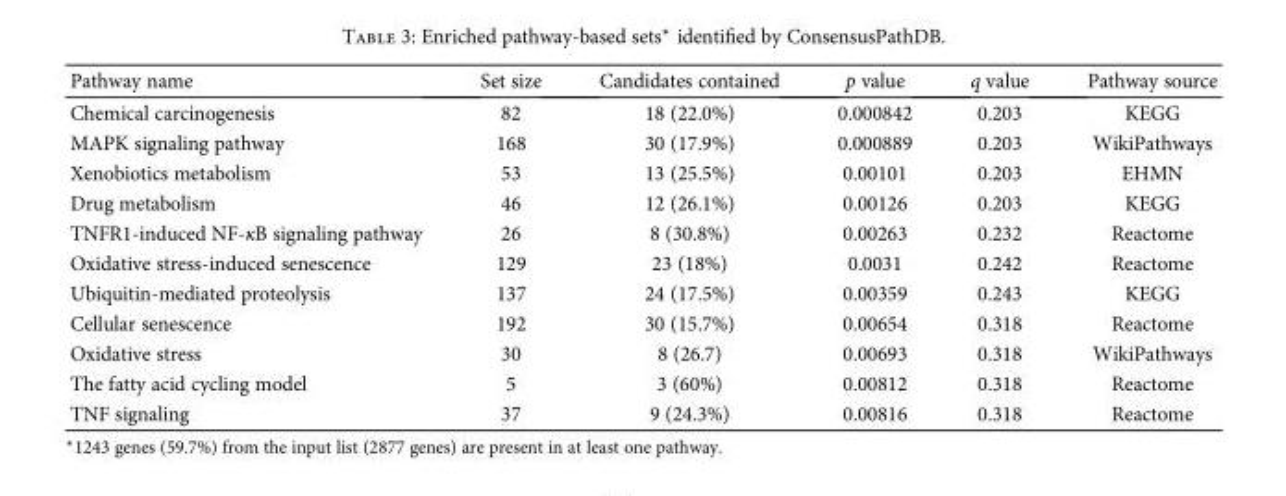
<table><thead><tr><td>Pathway name</td><td>Set size</td><td>Candidates contained</td><td>p value</td><td>q value</td><td>Pathway source</td></tr></thead><tbody><tr><td>Chemical carcinogenesis</td><td>82</td><td>18 (22.0%)</td><td>0.000842</td><td>0.203</td><td>KEGG</td></tr><tr><td>MAPK signaling pathway</td><td>168</td><td>30 (17.9%)</td><td>0.000889</td><td>0.203</td><td>WikiPathways</td></tr><tr><td>Xenobiotics metabolism</td><td>53</td><td>13 (25.5%)</td><td>0.00101</td><td>0.203</td><td>EHMN</td></tr><tr><td>Drug metabolism</td><td>46</td><td>12 (26.1%)</td><td>0.00126</td><td>0.203</td><td>KEGG</td></tr><tr><td>TNFR1-induced NF-κB signaling pathway</td><td>26</td><td>8 (30.8%)</td><td>0.00263</td><td>0.232</td><td>Reactome</td></tr><tr><td>Oxidative stress-induced senescence</td><td>129</td><td>23 (18%)</td><td>0.0031</td><td>0.242</td><td>Reactome</td></tr><tr><td>Ubiquitin-mediated proteolysis</td><td>137</td><td>24 (17.5%)</td><td>0.00359</td><td>0.243</td><td>KEGG</td></tr><tr><td>Cellular senescence</td><td>192</td><td>30 (15.7%)</td><td>0.00654</td><td>0.318</td><td>Reactome</td></tr><tr><td>Oxidative stress</td><td>30</td><td>8 (26.7)</td><td>0.00693</td><td>0.318</td><td>WikiPathways</td></tr><tr><td>The fatty acid cycling model</td><td>5</td><td>3 (60%)</td><td>0.00812</td><td>0.318</td><td>Reactome</td></tr><tr><td>TNF signaling</td><td>37</td><td>9 (24.3%)</td><td>0.00816</td><td>0.318</td><td>Reactome</td></tr></tbody></table>